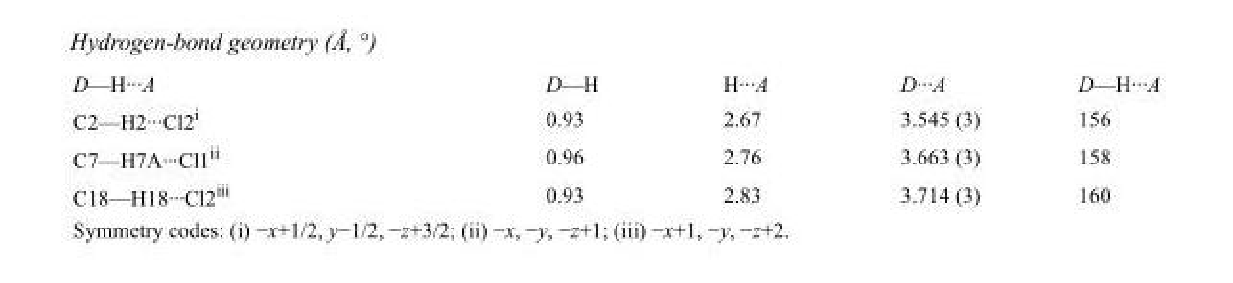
<table><tbody><tr><td>D—H···A</td><td>D—H</td><td>H···A</td><td>D···A</td><td>D—H···A</td></tr><tr><td>C2—H2···Cl2<sup>i</sup></td><td>0.93</td><td>2.67</td><td>3.545 (3)</td><td>156</td></tr><tr><td>C7—H7A···Cl1<sup>ii</sup></td><td>0.96</td><td>2.76</td><td>3.663 (3)</td><td>158</td></tr><tr><td>C18—H18···Cl2<sup>iii</sup></td><td>0.93</td><td>2.83</td><td>3.714 (3)</td><td>160</td></tr></tbody></table>